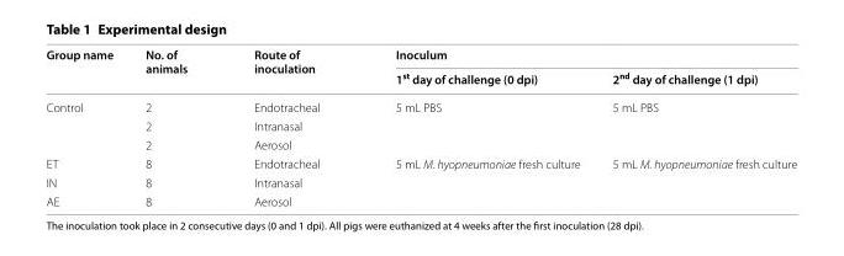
<table><thead><tr><td rowspan="2">Group name</td><td rowspan="2">No. of animals</td><td rowspan="2">Route of inoculation</td><td colspan="2">Inoculum</td></tr><tr><td>1<sup>st</sup> day of challenge (0 dpi)</td><td>2<sup>nd</sup> day of challenge (1 dpi)</td></tr></thead><tbody><tr><td rowspan="3">Control</td><td>2</td><td>Endotracheal</td><td rowspan="3">5 mL PBS</td><td rowspan="3">5 mL PBS</td></tr><tr><td>2</td><td>Intranasal</td></tr><tr><td>2</td><td>Aerosol</td></tr><tr><td>ET</td><td>8</td><td>Endotracheal</td><td rowspan="3">5 mL M. hyopneumoniae fresh culture</td><td rowspan="3">5 mL M. hyopneumoniae fresh culture</td></tr><tr><td>IN</td><td>8</td><td>Intranasal</td></tr><tr><td>AE</td><td>8</td><td>Aerosol</td></tr></tbody></table>